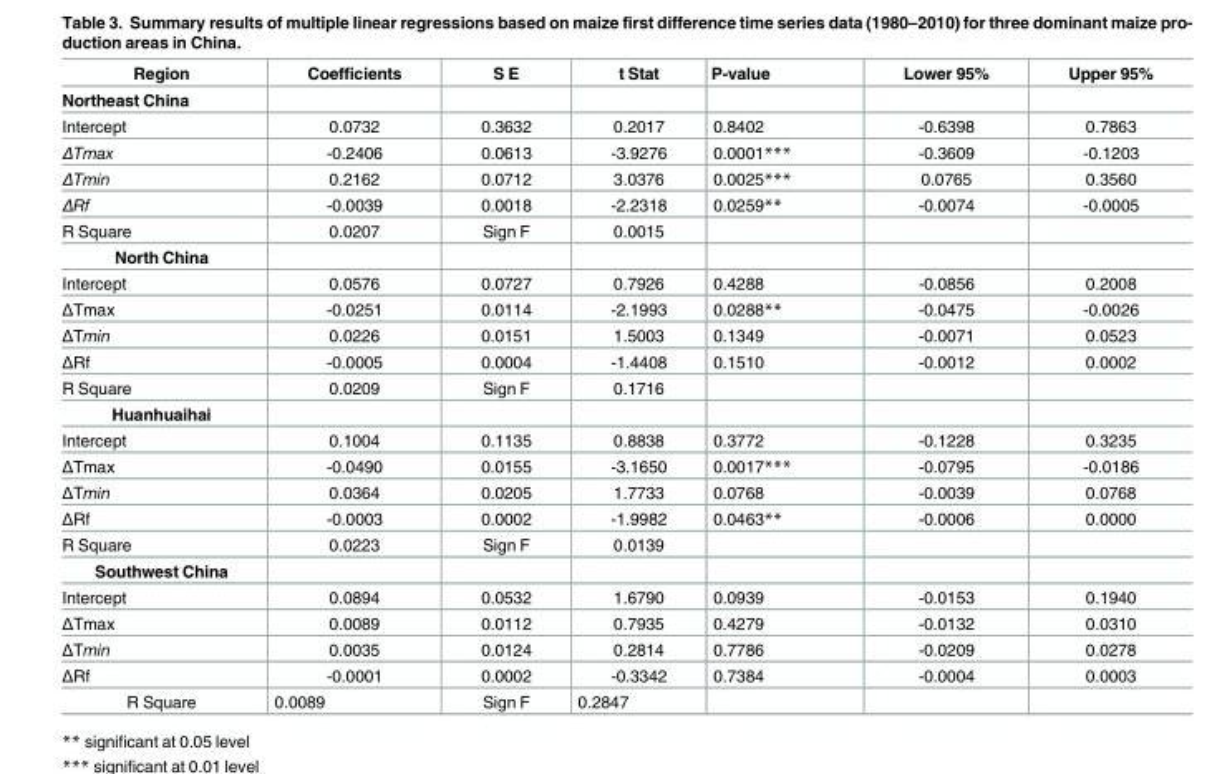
<table><thead><tr><td>Region</td><td>Coefficients</td><td>S E</td><td>t Stat</td><td>P-value</td><td>Lower 95%</td><td>Upper 95%</td></tr></thead><tbody><tr><td colspan="7">Northeast China</td></tr><tr><td>Intercept</td><td>0.0732</td><td>0.3632</td><td>0.2017</td><td>0.8402</td><td>-0.6398</td><td>0.7863</td></tr><tr><td>ΔTmax</td><td>-0.2406</td><td>0.0613</td><td>-3.9276</td><td>0.0001***</td><td>-0.3609</td><td>-0.1203</td></tr><tr><td>ΔTmin</td><td>0.2162</td><td>0.0712</td><td>3.0376</td><td>0.0025***</td><td>0.0765</td><td>0.3560</td></tr><tr><td>ΔRf</td><td>-0.0039</td><td>0.0018</td><td>-2.2318</td><td>0.0259**</td><td>-0.0074</td><td>-0.0005</td></tr><tr><td>R Square</td><td>0.0207</td><td>Sign F</td><td>0.0015</td><td></td><td></td><td></td></tr><tr><td colspan="7">North China</td></tr><tr><td>Intercept</td><td>0.0576</td><td>0.0727</td><td>0.7926</td><td>0.4288</td><td>-0.0856</td><td>0.2008</td></tr><tr><td>ΔTmax</td><td>-0.0251</td><td>0.0114</td><td>-2.1993</td><td>0.0288**</td><td>-0.0475</td><td>-0.0026</td></tr><tr><td>ΔTmin</td><td>0.0226</td><td>0.0151</td><td>1.5003</td><td>0.1349</td><td>-0.0071</td><td>0.0523</td></tr><tr><td>ΔRf</td><td>-0.0005</td><td>0.0004</td><td>-1.4408</td><td>0.1510</td><td>-0.0012</td><td>0.0002</td></tr><tr><td>R Square</td><td>0.0209</td><td>Sign F</td><td>0.1716</td><td></td><td></td><td></td></tr><tr><td colspan="7">Huanhuaihai</td></tr><tr><td>Intercept</td><td>0.1004</td><td>0.1135</td><td>0.8838</td><td>0.3772</td><td>-0.1228</td><td>0.3235</td></tr><tr><td>ΔTmax</td><td>-0.0490</td><td>0.0155</td><td>-3.1650</td><td>0.0017***</td><td>-0.0795</td><td>-0.0186</td></tr><tr><td>ΔTmin</td><td>0.0364</td><td>0.0205</td><td>1.7733</td><td>0.0768</td><td>-0.0039</td><td>0.0768</td></tr><tr><td>ΔRf</td><td>-0.0003</td><td>0.0002</td><td>-1.9982</td><td>0.0463**</td><td>-0.0006</td><td>0.0000</td></tr><tr><td>R Square</td><td>0.0223</td><td>Sign F</td><td>0.0139</td><td></td><td></td><td></td></tr><tr><td colspan="7">Southwest China</td></tr><tr><td>Intercept</td><td>0.0894</td><td>0.0532</td><td>1.6790</td><td>0.0939</td><td>-0.0153</td><td>0.1940</td></tr><tr><td>ΔTmax</td><td>0.0089</td><td>0.0112</td><td>0.7935</td><td>0.4279</td><td>-0.0132</td><td>0.0310</td></tr><tr><td>ΔTmin</td><td>0.0035</td><td>0.0124</td><td>0.2814</td><td>0.7786</td><td>-0.0209</td><td>0.0278</td></tr><tr><td>ΔRf</td><td>-0.0001</td><td>0.0002</td><td>-0.3342</td><td>0.7384</td><td>-0.0004</td><td>0.0003</td></tr><tr><td>R Square</td><td>0.0089</td><td>Sign F</td><td>0.2847</td><td></td><td></td><td></td></tr></tbody></table>